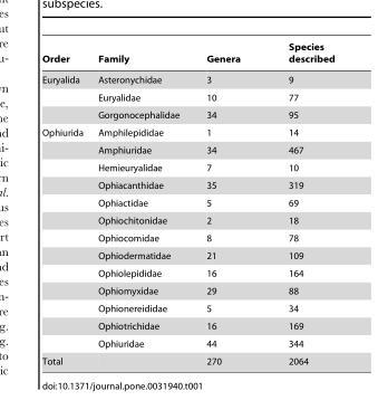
<table><thead><tr><td>Order</td><td>Family</td><td>Genera</td><td>Species described</td></tr></thead><tbody><tr><td rowspan="3">Euryalida</td><td>Asteronychidae</td><td>3</td><td>9</td></tr><tr><td>Euryalidae</td><td>10</td><td>77</td></tr><tr><td>Gorgonocephalidae</td><td>34</td><td>95</td></tr><tr><td rowspan="13">Ophiurida</td><td>Amphilepididae</td><td>1</td><td>14</td></tr><tr><td>Amphiuridae</td><td>34</td><td>467</td></tr><tr><td>Hemieuryalidae</td><td>7</td><td>10</td></tr><tr><td>Ophiacanthidae</td><td>35</td><td>319</td></tr><tr><td>Ophiactidae</td><td>5</td><td>69</td></tr><tr><td>Ophiochitonidae</td><td>2</td><td>18</td></tr><tr><td>Ophiocomidae</td><td>8</td><td>78</td></tr><tr><td>Ophiodermatidae</td><td>21</td><td>109</td></tr><tr><td>Ophiolepididae</td><td>16</td><td>164</td></tr><tr><td>Ophiomyxidae</td><td>29</td><td>88</td></tr><tr><td>Ophionereididae</td><td>5</td><td>34</td></tr><tr><td>Ophiotrichidae</td><td>16</td><td>169</td></tr><tr><td>Ophiuridae</td><td>44</td><td>344</td></tr><tr><td>Total</td><td></td><td>270</td><td>2064</td></tr></tbody></table>